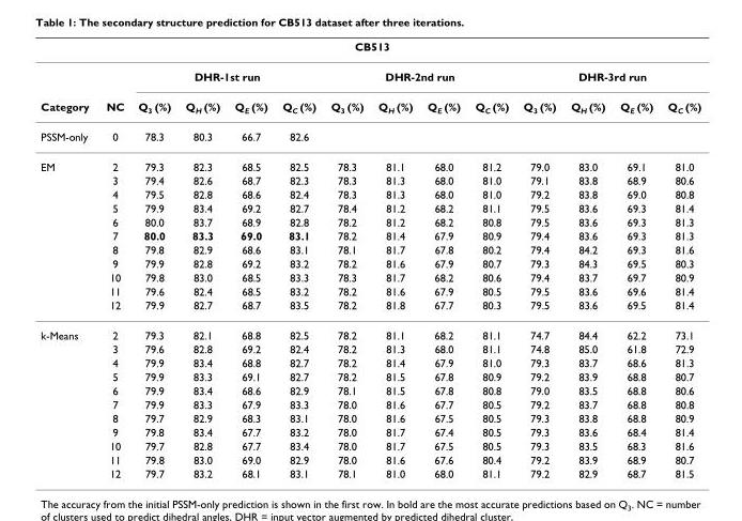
<table><thead><tr><td colspan="14">CB513</td></tr><tr><td rowspan="2">Category</td><td rowspan="2">NC</td><td colspan="4">DHR-1st run</td><td colspan="4">DHR-2nd run</td><td colspan="4">DHR-3rd run</td></tr><tr><td>Q<sub>3</sub> (%)</td><td>Q<sub>H</sub> (%)</td><td>Q<sub>E</sub> (%)</td><td>Q<sub>C</sub> (%)</td><td>Q<sub>3</sub> (%)</td><td>Q<sub>H</sub> (%)</td><td>Q<sub>E</sub> (%)</td><td>Q<sub>C</sub> (%)</td><td>Q<sub>3</sub> (%)</td><td>Q<sub>H</sub> (%)</td><td>Q<sub>E</sub> (%)</td><td>Q<sub>C</sub> (%)</td></tr></thead><tbody><tr><td>PSSM-only</td><td>0</td><td>78.3</td><td>80.3</td><td>66.7</td><td>82.6</td><td></td><td></td><td></td><td></td><td></td><td></td><td></td><td></td></tr><tr><td rowspan="11">EM</td><td>2</td><td>79.3</td><td>82.3</td><td>68.5</td><td>82.5</td><td>78.3</td><td>81.1</td><td>68.0</td><td>81.2</td><td>79.0</td><td>83.0</td><td>69.1</td><td>81.0</td></tr><tr><td>3</td><td>79.4</td><td>82.6</td><td>68.7</td><td>82.3</td><td>78.3</td><td>81.3</td><td>68.0</td><td>81.0</td><td>79.1</td><td>83.8</td><td>68.9</td><td>80.6</td></tr><tr><td>4</td><td>79.5</td><td>82.8</td><td>68.6</td><td>82.4</td><td>78.3</td><td>81.3</td><td>68.0</td><td>81.0</td><td>79.2</td><td>83.8</td><td>69.0</td><td>80.8</td></tr><tr><td>5</td><td>79.9</td><td>83.4</td><td>69.2</td><td>82.7</td><td>78.4</td><td>81.2</td><td>68.2</td><td>81.1</td><td>79.5</td><td>83.6</td><td>69.3</td><td>81.4</td></tr><tr><td>6</td><td>80.0</td><td>83.7</td><td>68.9</td><td>82.8</td><td>78.2</td><td>81.2</td><td>68.2</td><td>80.8</td><td>79.5</td><td>83.6</td><td>69.3</td><td>81.3</td></tr><tr><td>7</td><td>80.0</td><td>83.3</td><td>69.0</td><td>83.1</td><td>78.2</td><td>81.4</td><td>67.9</td><td>80.9</td><td>79.4</td><td>83.6</td><td>69.3</td><td>81.3</td></tr><tr><td>8</td><td>79.8</td><td>82.9</td><td>68.6</td><td>83.1</td><td>78.1</td><td>81.7</td><td>67.8</td><td>80.2</td><td>79.4</td><td>84.2</td><td>69.3</td><td>81.6</td></tr><tr><td>9</td><td>79.9</td><td>82.8</td><td>69.2</td><td>83.2</td><td>78.2</td><td>81.6</td><td>67.9</td><td>80.7</td><td>79.3</td><td>84.3</td><td>69.5</td><td>80.3</td></tr><tr><td>10</td><td>79.8</td><td>83.0</td><td>68.5</td><td>83.3</td><td>78.3</td><td>81.7</td><td>68.2</td><td>80.6</td><td>79.4</td><td>83.7</td><td>69.7</td><td>80.9</td></tr><tr><td>11</td><td>79.6</td><td>82.4</td><td>68.5</td><td>83.2</td><td>78.2</td><td>81.6</td><td>67.9</td><td>80.5</td><td>79.5</td><td>83.6</td><td>69.6</td><td>81.4</td></tr><tr><td>12</td><td>79.9</td><td>82.7</td><td>68.7</td><td>83.5</td><td>78.2</td><td>81.8</td><td>67.7</td><td>80.3</td><td>79.5</td><td>83.6</td><td>69.5</td><td>81.4</td></tr><tr><td rowspan="11">k-Means</td><td>2</td><td>79.3</td><td>82.1</td><td>68.8</td><td>82.5</td><td>78.2</td><td>81.1</td><td>68.2</td><td>81.1</td><td>74.7</td><td>84.4</td><td>62.2</td><td>73.1</td></tr><tr><td>3</td><td>79.6</td><td>82.8</td><td>69.2</td><td>82.4</td><td>78.2</td><td>81.3</td><td>68.0</td><td>81.1</td><td>74.8</td><td>85.0</td><td>61.8</td><td>72.9</td></tr><tr><td>4</td><td>79.9</td><td>83.4</td><td>68.8</td><td>82.7</td><td>78.2</td><td>81.4</td><td>67.9</td><td>81.0</td><td>79.3</td><td>83.7</td><td>68.6</td><td>81.3</td></tr><tr><td>5</td><td>79.9</td><td>83.3</td><td>69.1</td><td>82.7</td><td>78.2</td><td>81.5</td><td>67.8</td><td>80.9</td><td>79.2</td><td>83.9</td><td>68.8</td><td>80.7</td></tr><tr><td>6</td><td>79.9</td><td>83.4</td><td>68.6</td><td>82.9</td><td>78.1</td><td>81.5</td><td>67.8</td><td>80.8</td><td>79.0</td><td>83.5</td><td>68.8</td><td>80.6</td></tr><tr><td>7</td><td>79.9</td><td>83.3</td><td>67.9</td><td>83.3</td><td>78.0</td><td>81.6</td><td>67.7</td><td>80.5</td><td>79.2</td><td>83.7</td><td>68.8</td><td>80.8</td></tr><tr><td>8</td><td>79.7</td><td>82.9</td><td>68.3</td><td>83.1</td><td>78.0</td><td>81.6</td><td>67.5</td><td>80.5</td><td>79.3</td><td>83.8</td><td>68.8</td><td>80.9</td></tr><tr><td>9</td><td>79.8</td><td>83.4</td><td>67.7</td><td>83.2</td><td>78.0</td><td>81.7</td><td>67.4</td><td>80.5</td><td>79.3</td><td>83.6</td><td>68.4</td><td>81.4</td></tr><tr><td>10</td><td>79.7</td><td>82.8</td><td>67.7</td><td>83.4</td><td>78.0</td><td>81.7</td><td>67.5</td><td>80.5</td><td>79.3</td><td>83.5</td><td>68.3</td><td>81.6</td></tr><tr><td>11</td><td>79.8</td><td>83.0</td><td>69.0</td><td>82.9</td><td>78.0</td><td>81.6</td><td>67.6</td><td>80.4</td><td>79.2</td><td>83.9</td><td>68.9</td><td>80.7</td></tr><tr><td>12</td><td>79.7</td><td>83.2</td><td>68.1</td><td>83.1</td><td>78.1</td><td>81.0</td><td>68.0</td><td>81.1</td><td>79.2</td><td>82.9</td><td>68.7</td><td>81.5</td></tr></tbody></table>